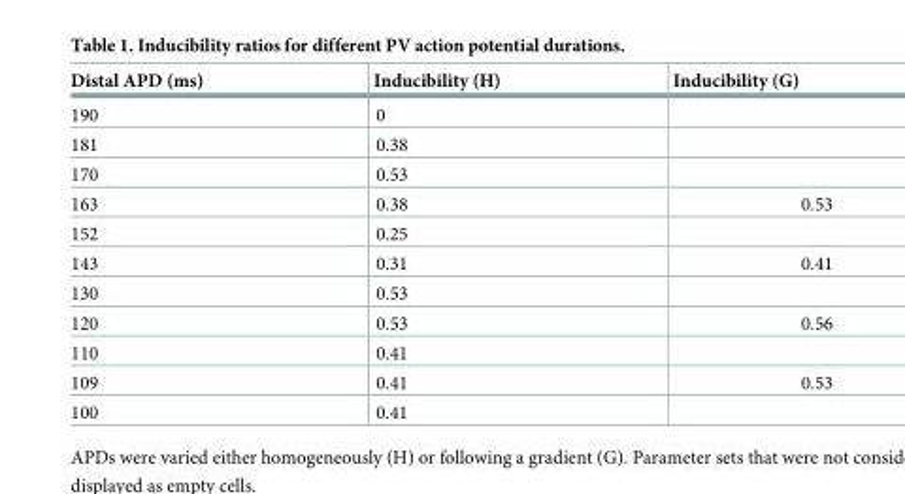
<table><thead><tr><td>Distal APD (ms)</td><td>Inducibility (H)</td><td>Inducibility (G)</td></tr></thead><tbody><tr><td>190</td><td>0</td><td></td></tr><tr><td>181</td><td>0.38</td><td></td></tr><tr><td>170</td><td>0.53</td><td></td></tr><tr><td>163</td><td>0.38</td><td>0.53</td></tr><tr><td>152</td><td>0.25</td><td></td></tr><tr><td>143</td><td>0.31</td><td>0.41</td></tr><tr><td>130</td><td>0.53</td><td></td></tr><tr><td>120</td><td>0.53</td><td>0.56</td></tr><tr><td>110</td><td>0.41</td><td></td></tr><tr><td>109</td><td>0.41</td><td>0.53</td></tr><tr><td>100</td><td>0.41</td><td></td></tr></tbody></table>